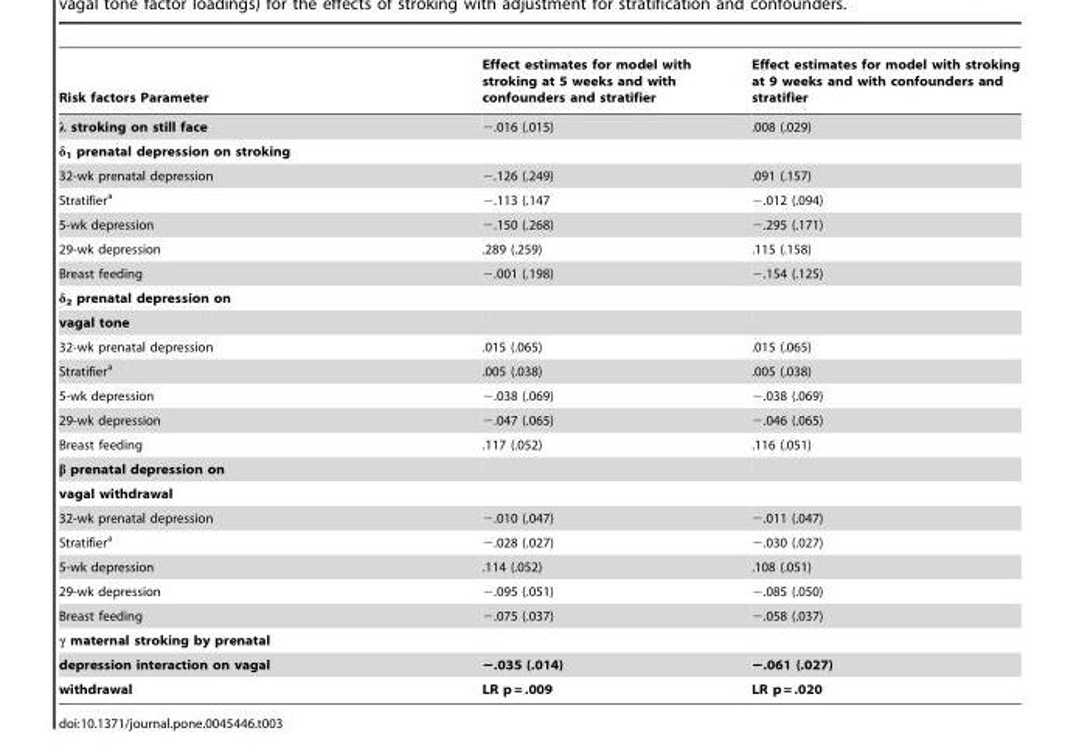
<table><thead><tr><td>Risk factors Parameter</td><td>Effect estimates for model with stroking at 5 weeks and with confounders and stratifier</td><td>Effect estimates for model with stroking at 9 weeks and with confounders and stratifier</td></tr></thead><tbody><tr><td>λ stroking on still face</td><td>−.016 (.015)</td><td>.008 (.029)</td></tr><tr><td colspan="3">δ<sub>1</sub> prenatal depression on stroking</td></tr><tr><td>32-wk prenatal depression</td><td>−.126 (.249)</td><td>.091 (.157)</td></tr><tr><td>Stratifier<sup>a</sup></td><td>−.113 (.147</td><td>−.012 (.094)</td></tr><tr><td>5-wk depression</td><td>−.150 (.268)</td><td>−.295 (.171)</td></tr><tr><td>29-wk depression</td><td>.289 (.259)</td><td>.115 (.158)</td></tr><tr><td>Breast feeding</td><td>−.001 (.198)</td><td>−.154 (.125)</td></tr><tr><td colspan="3">δ<sub>2</sub> prenatal depression on</td></tr><tr><td colspan="3">vagal tone</td></tr><tr><td>32-wk prenatal depression</td><td>.015 (.065)</td><td>.015 (.065)</td></tr><tr><td>Stratifier<sup>a</sup></td><td>.005 (.038)</td><td>.005 (.038)</td></tr><tr><td>5-wk depression</td><td>−.038 (.069)</td><td>−.038 (.069)</td></tr><tr><td>29-wk depression</td><td>−.047 (.065)</td><td>−.046 (.065)</td></tr><tr><td>Breast feeding</td><td>.117 (.052)</td><td>.116 (.051)</td></tr><tr><td colspan="3">β prenatal depression on</td></tr><tr><td colspan="3">vagal withdrawal</td></tr><tr><td>32-wk prenatal depression</td><td>−.010 (.047)</td><td>−.011 (.047)</td></tr><tr><td>Stratifier<sup>a</sup></td><td>−.028 (.027)</td><td>−.030 (.027)</td></tr><tr><td>5-wk depression</td><td>.114 (.052)</td><td>.108 (.051)</td></tr><tr><td>29-wk depression</td><td>−.095 (.051)</td><td>−.085 (.050)</td></tr><tr><td>Breast feeding</td><td>−.075 (.037)</td><td>−.058 (.037)</td></tr><tr><td colspan="3">γ maternal stroking by prenatal</td></tr><tr><td>depression interaction on vagal</td><td>−.035 (.014)</td><td>−.061 (.027)</td></tr><tr><td>withdrawal</td><td>LR p = .009</td><td>LR p = .020</td></tr></tbody></table>